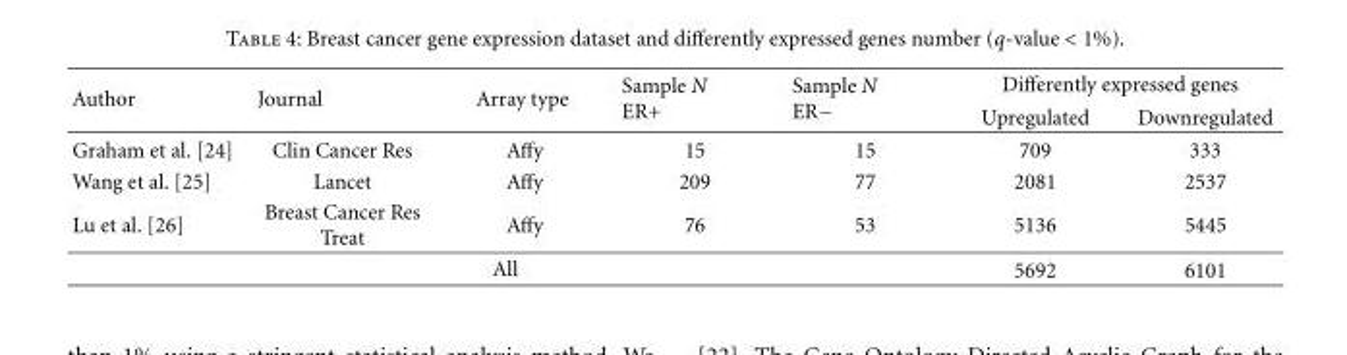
<table><thead><tr><td rowspan="2">Author</td><td rowspan="2">Journal</td><td rowspan="2">Array type</td><td rowspan="2">Sample N ER+</td><td rowspan="2">Sample N ER−</td><td colspan="2">Differently expressed genes</td></tr><tr><td>Upregulated</td><td>Downregulated</td></tr></thead><tbody><tr><td>Graham et al. [24]</td><td>Clin Cancer Res</td><td>Affy</td><td>15</td><td>15</td><td>709</td><td>333</td></tr><tr><td>Wang et al. [25]</td><td>Lancet</td><td>Affy</td><td>209</td><td>77</td><td>2081</td><td>2537</td></tr><tr><td>Lu et al. [26]</td><td>Breast Cancer Res Treat</td><td>Affy</td><td>76</td><td>53</td><td>5136</td><td>5445</td></tr><tr><td colspan="5">All</td><td>5692</td><td>6101</td></tr></tbody></table>